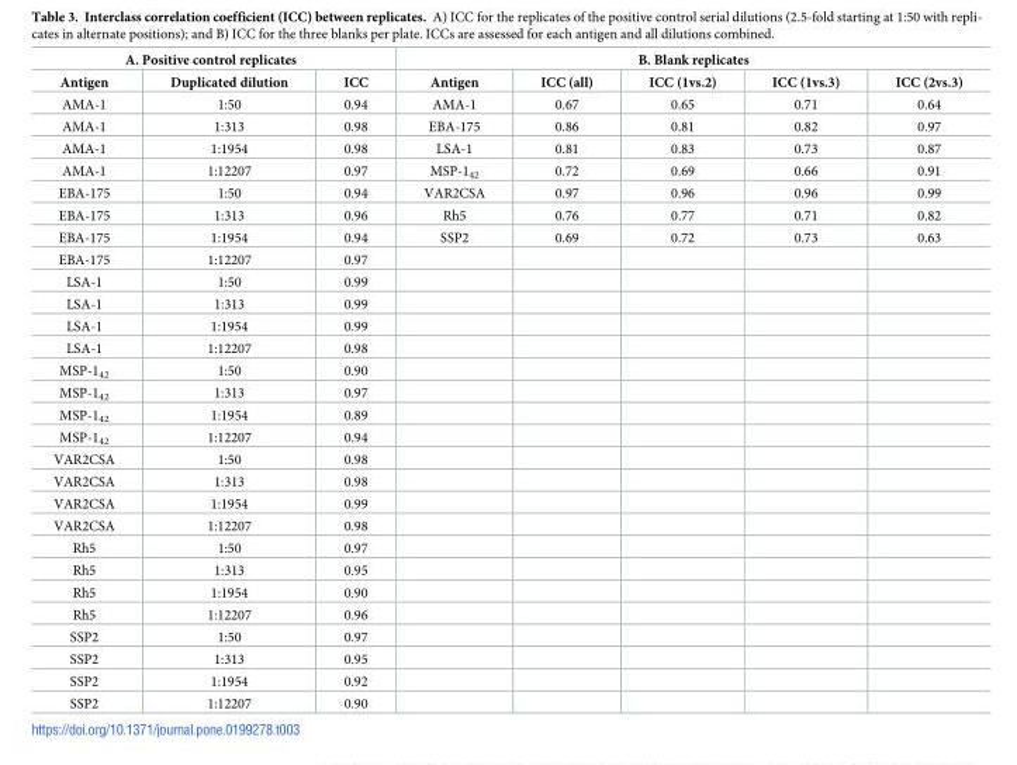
<table><thead><tr><td colspan="3">A. Positive control replicates</td><td colspan="5">B. Blank replicates</td></tr><tr><td>Antigen</td><td>Duplicated dilution</td><td>ICC</td><td>Antigen</td><td>ICC (all)</td><td>ICC (1vs.2)</td><td>ICC (1vs.3)</td><td>ICC (2vs.3)</td></tr></thead><tbody><tr><td>AMA-1</td><td>1:50</td><td>0.94</td><td>AMA-1</td><td>0.67</td><td>0.65</td><td>0.71</td><td>0.64</td></tr><tr><td>AMA-1</td><td>1:313</td><td>0.98</td><td>EBA-175</td><td>0.86</td><td>0.81</td><td>0.82</td><td>0.97</td></tr><tr><td>AMA-1</td><td>1:1954</td><td>0.98</td><td>LSA-1</td><td>0.81</td><td>0.83</td><td>0.73</td><td>0.87</td></tr><tr><td>AMA-1</td><td>1:12207</td><td>0.97</td><td>MSP-1<sub>42</sub></td><td>0.72</td><td>0.69</td><td>0.66</td><td>0.91</td></tr><tr><td>EBA-175</td><td>1:50</td><td>0.94</td><td>VAR2CSA</td><td>0.97</td><td>0.96</td><td>0.96</td><td>0.99</td></tr><tr><td>EBA-175</td><td>1:313</td><td>0.96</td><td>Rh5</td><td>0.76</td><td>0.77</td><td>0.71</td><td>0.82</td></tr><tr><td>EBA-175</td><td>1:1954</td><td>0.94</td><td>SSP2</td><td>0.69</td><td>0.72</td><td>0.73</td><td>0.63</td></tr><tr><td>EBA-175</td><td>1:12207</td><td>0.97</td><td></td><td></td><td></td><td></td><td></td></tr><tr><td>LSA-1</td><td>1:50</td><td>0.99</td><td></td><td></td><td></td><td></td><td></td></tr><tr><td>LSA-1</td><td>1:313</td><td>0.99</td><td></td><td></td><td></td><td></td><td></td></tr><tr><td>LSA-1</td><td>1:1954</td><td>0.99</td><td></td><td></td><td></td><td></td><td></td></tr><tr><td>LSA-1</td><td>1:12207</td><td>0.98</td><td></td><td></td><td></td><td></td><td></td></tr><tr><td>MSP-1<sub>42</sub></td><td>1:50</td><td>0.90</td><td></td><td></td><td></td><td></td><td></td></tr><tr><td>MSP-1<sub>42</sub></td><td>1:313</td><td>0.97</td><td></td><td></td><td></td><td></td><td></td></tr><tr><td>MSP-1<sub>42</sub></td><td>1:1954</td><td>0.89</td><td></td><td></td><td></td><td></td><td></td></tr><tr><td>MSP-1<sub>42</sub></td><td>1:12207</td><td>0.94</td><td></td><td></td><td></td><td></td><td></td></tr><tr><td>VAR2CSA</td><td>1:50</td><td>0.98</td><td></td><td></td><td></td><td></td><td></td></tr><tr><td>VAR2CSA</td><td>1:313</td><td>0.98</td><td></td><td></td><td></td><td></td><td></td></tr><tr><td>VAR2CSA</td><td>1:1954</td><td>0.99</td><td></td><td></td><td></td><td></td><td></td></tr><tr><td>VAR2CSA</td><td>1:12207</td><td>0.98</td><td></td><td></td><td></td><td></td><td></td></tr><tr><td>Rh5</td><td>1:50</td><td>0.97</td><td></td><td></td><td></td><td></td><td></td></tr><tr><td>Rh5</td><td>1:313</td><td>0.95</td><td></td><td></td><td></td><td></td><td></td></tr><tr><td>Rh5</td><td>1:1954</td><td>0.90</td><td></td><td></td><td></td><td></td><td></td></tr><tr><td>Rh5</td><td>1:12207</td><td>0.96</td><td></td><td></td><td></td><td></td><td></td></tr><tr><td>SSP2</td><td>1:50</td><td>0.97</td><td></td><td></td><td></td><td></td><td></td></tr><tr><td>SSP2</td><td>1:313</td><td>0.95</td><td></td><td></td><td></td><td></td><td></td></tr><tr><td>SSP2</td><td>1:1954</td><td>0.92</td><td></td><td></td><td></td><td></td><td></td></tr><tr><td>SSP2</td><td>1:12207</td><td>0.90</td><td></td><td></td><td></td><td></td><td></td></tr></tbody></table>